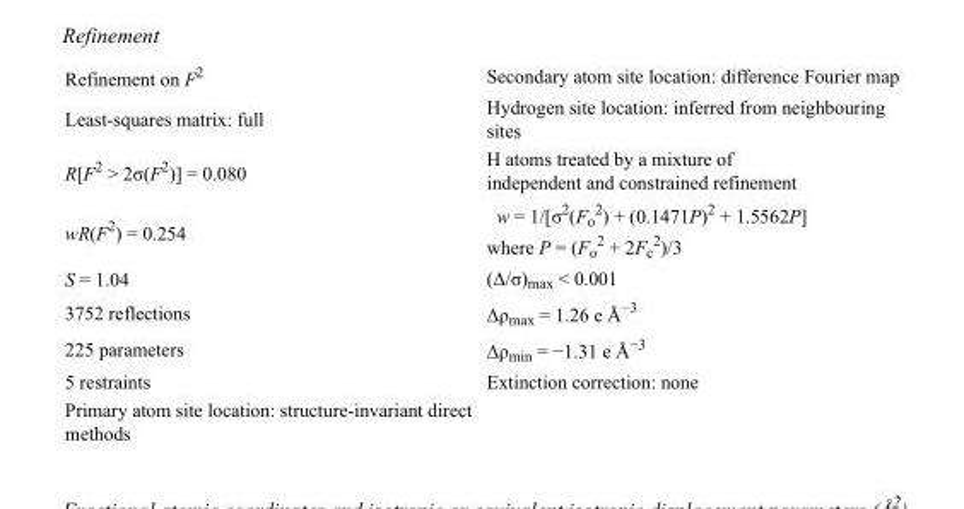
<table><tbody><tr><td>Refinement on F<sup>2</sup></td><td>Secondary atom site location: difference Fourier map</td></tr><tr><td>Least-squares matrix: full</td><td>Hydrogen site location: inferred from neighbouring sites</td></tr><tr><td>R[F<sup>2</sup> &gt; 2σ(F<sup>2</sup>)] = 0.080</td><td>H atoms treated by a mixture of independent and constrained refinement</td></tr><tr><td>wR(F<sup>2</sup>) = 0.254</td><td>w = 1/[σ<sup>2</sup>(F<sub>o</sub> <sup>2</sup>) + (0.1471P)<sup>2</sup> + 1.5562P] where P = (F<sub>o</sub> <sup>2</sup> + 2F<sub>c</sub> <sup>2</sup>)/3</td></tr><tr><td>S = 1.04</td><td>(Δ/σ)<sub>max</sub> &lt; 0.001</td></tr><tr><td>3752 reflections</td><td>Δρ<sub>max</sub> = 1.26 e Å<sup>−3</sup></td></tr><tr><td>225 parameters</td><td>Δρ<sub>min</sub> = −1.31 e Å<sup>−3</sup></td></tr><tr><td>5 restraints</td><td>Extinction correction: none</td></tr><tr><td>Primary atom site location: structure-invariant direct methods</td><td></td></tr></tbody></table>